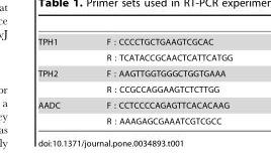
<table><tbody><tr><td rowspan="2">TPH1</td><td>F : CCCCTGCTGAAGTCGCAC</td></tr><tr><td>R : TCATACCGCAACTCATTCATGG</td></tr><tr><td rowspan="2">TPH2</td><td>F : AAGTTGGTGGGCTGGTGAAA</td></tr><tr><td>R : CCGCCAGGAAGTCTCTTGG</td></tr><tr><td rowspan="2">AADC</td><td>F : CCTCCCCAGAGTTCACACAAG</td></tr><tr><td>R : AAAGAGCGAAATCGTCGCC</td></tr></tbody></table>